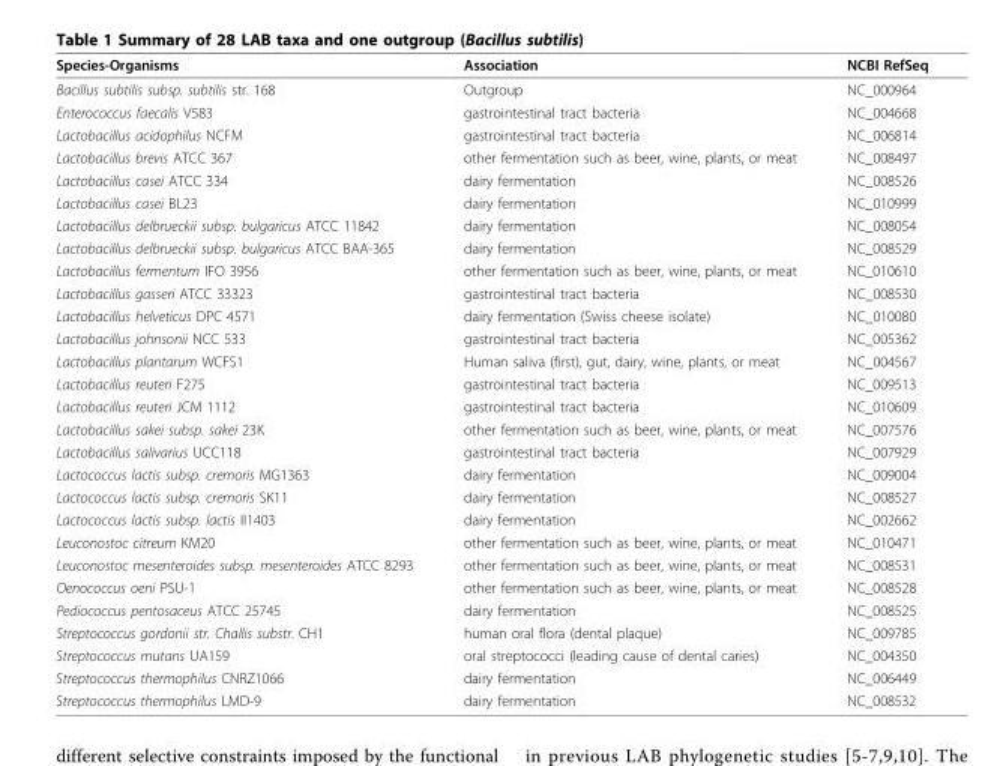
<table><thead><tr><td>Species-Organisms</td><td>Association</td><td>NCBI RefSeq</td></tr></thead><tbody><tr><td>Bacillus subtilis subsp. subtilis str. 168</td><td>Outgroup</td><td>NC_000964</td></tr><tr><td>Enterococcus faecalis V583</td><td>gastrointestinal tract bacteria</td><td>NC_004668</td></tr><tr><td>Lactobacillus acidophilus NCFM</td><td>gastrointestinal tract bacteria</td><td>NC_006814</td></tr><tr><td>Lactobacillus brevis ATCC 367</td><td>other fermentation such as beer, wine, plants, or meat</td><td>NC_008497</td></tr><tr><td>Lactobacillus casei ATCC 334</td><td>dairy fermentation</td><td>NC_008526</td></tr><tr><td>Lactobacillus casei BL23</td><td>dairy fermentation</td><td>NC_010999</td></tr><tr><td>Lactobacillus delbrueckii subsp. bulgaricus ATCC 11842</td><td>dairy fermentation</td><td>NC_008054</td></tr><tr><td>Lactobacillus delbrueckii subsp. bulgaricus ATCC BAA-365</td><td>dairy fermentation</td><td>NC_008529</td></tr><tr><td>Lactobacillus fermentum IFO 3956</td><td>other fermentation such as beer, wine, plants, or meat</td><td>NC_010610</td></tr><tr><td>Lactobacillus gasseri ATCC 33323</td><td>gastrointestinal tract bacteria</td><td>NC_008530</td></tr><tr><td>Lactobacillus helveticus DPC 4571</td><td>dairy fermentation (Swiss cheese isolate)</td><td>NC_010080</td></tr><tr><td>Lactobacillus johnsonii NCC 533</td><td>gastrointestinal tract bacteria</td><td>NC_005362</td></tr><tr><td>Lactobacillus plantarum WCFS1</td><td>Human saliva (first), gut, dairy, wine, plants, or meat</td><td>NC_004567</td></tr><tr><td>Lactobacillus reuteri F275</td><td>gastrointestinal tract bacteria</td><td>NC_009513</td></tr><tr><td>Lactobacillus reuteri JCM 1112</td><td>gastrointestinal tract bacteria</td><td>NC_010609</td></tr><tr><td>Lactobacillus sakei subsp. sakei 23K</td><td>other fermentation such as beer, wine, plants, or meat</td><td>NC_007576</td></tr><tr><td>Lactobacillus salivarius UCC118</td><td>gastrointestinal tract bacteria</td><td>NC_007929</td></tr><tr><td>Lactococcus lactis subsp. cremoris MG1363</td><td>dairy fermentation</td><td>NC_009004</td></tr><tr><td>Lactococcus lactis subsp. cremoris SK11</td><td>dairy fermentation</td><td>NC_008527</td></tr><tr><td>Lactococcus lactis subsp. lactis Il1403</td><td>dairy fermentation</td><td>NC_002662</td></tr><tr><td>Leuconostoc citreum KM20</td><td>other fermentation such as beer, wine, plants, or meat</td><td>NC_010471</td></tr><tr><td>Leuconostoc mesenteroides subsp. mesenteroides ATCC 8293</td><td>other fermentation such as beer, wine, plants, or meat</td><td>NC_008531</td></tr><tr><td>Oenococcus oeni PSU-1</td><td>other fermentation such as beer, wine, plants, or meat</td><td>NC_008528</td></tr><tr><td>Pediococcus pentosaceus ATCC 25745</td><td>dairy fermentation</td><td>NC_008525</td></tr><tr><td>Streptococcus gordonii str. Challis substr. CH1</td><td>human oral flora (dental plaque)</td><td>NC_009785</td></tr><tr><td>Streptococcus mutans UA159</td><td>oral streptococci (leading cause of dental caries)</td><td>NC_004350</td></tr><tr><td>Streptococcus thermophilus CNRZ1066</td><td>dairy fermentation</td><td>NC_006449</td></tr><tr><td>Streptococcus thermophilus LMD-9</td><td>dairy fermentation</td><td>NC_008532</td></tr></tbody></table>